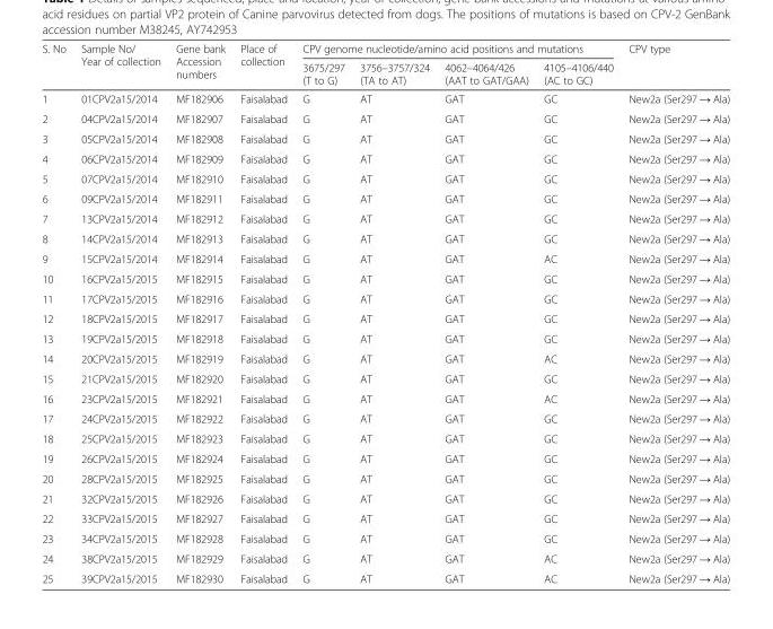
<table><thead><tr><td rowspan="2">S. No</td><td rowspan="2">Sample No/ Year of collection</td><td rowspan="2">Gene bank Accession numbers</td><td rowspan="2">Place of collection</td><td colspan="4">CPV genome nucleotide/amino acid positions and mutations</td><td rowspan="2">CPV type</td></tr><tr><td>3675/297 (T to G)</td><td>3756–3757/324 (TA to AT)</td><td>4062–4064/426 (AAT to GAT/GAA)</td><td>4105–4106/440 (AC to GC)</td></tr></thead><tbody><tr><td>1</td><td>01CPV2a15/2014</td><td>MF182906</td><td>Faisalabad</td><td>G</td><td>AT</td><td>GAT</td><td>GC</td><td>New2a (Ser297 → Ala)</td></tr><tr><td>2</td><td>04CPV2a15/2014</td><td>MF182907</td><td>Faisalabad</td><td>G</td><td>AT</td><td>GAT</td><td>GC</td><td>New2a (Ser297 → Ala)</td></tr><tr><td>3</td><td>05CPV2a15/2014</td><td>MF182908</td><td>Faisalabad</td><td>G</td><td>AT</td><td>GAT</td><td>GC</td><td>New2a (Ser297 → Ala)</td></tr><tr><td>4</td><td>06CPV2a15/2014</td><td>MF182909</td><td>Faisalabad</td><td>G</td><td>AT</td><td>GAT</td><td>GC</td><td>New2a (Ser297 → Ala)</td></tr><tr><td>5</td><td>07CPV2a15/2014</td><td>MF182910</td><td>Faisalabad</td><td>G</td><td>AT</td><td>GAT</td><td>GC</td><td>New2a (Ser297 → Ala)</td></tr><tr><td>6</td><td>09CPV2a15/2014</td><td>MF182911</td><td>Faisalabad</td><td>G</td><td>AT</td><td>GAT</td><td>GC</td><td>New2a (Ser297 → Ala)</td></tr><tr><td>7</td><td>13CPV2a15/2014</td><td>MF182912</td><td>Faisalabad</td><td>G</td><td>AT</td><td>GAT</td><td>GC</td><td>New2a (Ser297 → Ala)</td></tr><tr><td>8</td><td>14CPV2a15/2014</td><td>MF182913</td><td>Faisalabad</td><td>G</td><td>AT</td><td>GAT</td><td>GC</td><td>New2a (Ser297 → Ala)</td></tr><tr><td>9</td><td>15CPV2a15/2014</td><td>MF182914</td><td>Faisalabad</td><td>G</td><td>AT</td><td>GAT</td><td>AC</td><td>New2a (Ser297 → Ala)</td></tr><tr><td>10</td><td>16CPV2a15/2015</td><td>MF182915</td><td>Faisalabad</td><td>G</td><td>AT</td><td>GAT</td><td>GC</td><td>New2a (Ser297 → Ala)</td></tr><tr><td>11</td><td>17CPV2a15/2015</td><td>MF182916</td><td>Faisalabad</td><td>G</td><td>AT</td><td>GAT</td><td>GC</td><td>New2a (Ser297 → Ala)</td></tr><tr><td>12</td><td>18CPV2a15/2015</td><td>MF182917</td><td>Faisalabad</td><td>G</td><td>AT</td><td>GAT</td><td>GC</td><td>New2a (Ser297 → Ala)</td></tr><tr><td>13</td><td>19CPV2a15/2015</td><td>MF182918</td><td>Faisalabad</td><td>G</td><td>AT</td><td>GAT</td><td>GC</td><td>New2a (Ser297 → Ala)</td></tr><tr><td>14</td><td>20CPV2a15/2015</td><td>MF182919</td><td>Faisalabad</td><td>G</td><td>AT</td><td>GAT</td><td>AC</td><td>New2a (Ser297 → Ala)</td></tr><tr><td>15</td><td>21CPV2a15/2015</td><td>MF182920</td><td>Faisalabad</td><td>G</td><td>AT</td><td>GAT</td><td>GC</td><td>New2a (Ser297 → Ala)</td></tr><tr><td>16</td><td>23CPV2a15/2015</td><td>MF182921</td><td>Faisalabad</td><td>G</td><td>AT</td><td>GAT</td><td>AC</td><td>New2a (Ser297 → Ala)</td></tr><tr><td>17</td><td>24CPV2a15/2015</td><td>MF182922</td><td>Faisalabad</td><td>G</td><td>AT</td><td>GAT</td><td>GC</td><td>New2a (Ser297 → Ala)</td></tr><tr><td>18</td><td>25CPV2a15/2015</td><td>MF182923</td><td>Faisalabad</td><td>G</td><td>AT</td><td>GAT</td><td>GC</td><td>New2a (Ser297 → Ala)</td></tr><tr><td>19</td><td>26CPV2a15/2015</td><td>MF182924</td><td>Faisalabad</td><td>G</td><td>AT</td><td>GAT</td><td>GC</td><td>New2a (Ser297 → Ala)</td></tr><tr><td>20</td><td>28CPV2a15/2015</td><td>MF182925</td><td>Faisalabad</td><td>G</td><td>AT</td><td>GAT</td><td>GC</td><td>New2a (Ser297 → Ala)</td></tr><tr><td>21</td><td>32CPV2a15/2015</td><td>MF182926</td><td>Faisalabad</td><td>G</td><td>AT</td><td>GAT</td><td>GC</td><td>New2a (Ser297 → Ala)</td></tr><tr><td>22</td><td>33CPV2a15/2015</td><td>MF182927</td><td>Faisalabad</td><td>G</td><td>AT</td><td>GAT</td><td>GC</td><td>New2a (Ser297 → Ala)</td></tr><tr><td>23</td><td>34CPV2a15/2015</td><td>MF182928</td><td>Faisalabad</td><td>G</td><td>AT</td><td>GAT</td><td>GC</td><td>New2a (Ser297 → Ala)</td></tr><tr><td>24</td><td>38CPV2a15/2015</td><td>MF182929</td><td>Faisalabad</td><td>G</td><td>AT</td><td>GAT</td><td>AC</td><td>New2a (Ser297 → Ala)</td></tr><tr><td>25</td><td>39CPV2a15/2015</td><td>MF182930</td><td>Faisalabad</td><td>G</td><td>AT</td><td>GAT</td><td>AC</td><td>New2a (Ser297 → Ala)</td></tr></tbody></table>